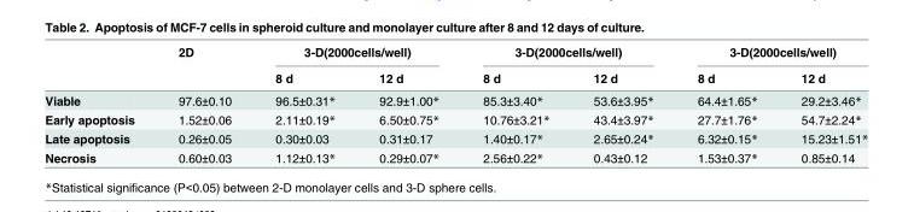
<table><thead><tr><td rowspan="2"></td><td rowspan="2">2D</td><td colspan="2">3-D(2000cells/well)</td><td colspan="2">3-D(2000cells/well)</td><td colspan="2">3-D(2000cells/well)</td></tr><tr><td>8 d</td><td>12 d</td><td>8 d</td><td>12 d</td><td>8 d</td><td>12 d</td></tr></thead><tbody><tr><td>Viable</td><td>97.6±0.10</td><td>96.5±0.31*</td><td>92.9±1.00*</td><td>85.3±3.40*</td><td>53.6±3.95*</td><td>64.4±1.65*</td><td>29.2±3.46*</td></tr><tr><td>Early apoptosis</td><td>1.52±0.06</td><td>2.11±0.19*</td><td>6.50±0.75*</td><td>10.76±3.21*</td><td>43.4±3.97*</td><td>27.7±1.76*</td><td>54.7±2.24*</td></tr><tr><td>Late apoptosis</td><td>0.26±0.05</td><td>0.30±0.03</td><td>0.31±0.17</td><td>1.40±0.17*</td><td>2.65±0.24*</td><td>6.32±0.15*</td><td>15.23±1.51*</td></tr><tr><td>Necrosis</td><td>0.60±0.03</td><td>1.12±0.13*</td><td>0.29±0.07*</td><td>2.56±0.22*</td><td>0.43±0.12</td><td>1.53±0.37*</td><td>0.85±0.14</td></tr></tbody></table>